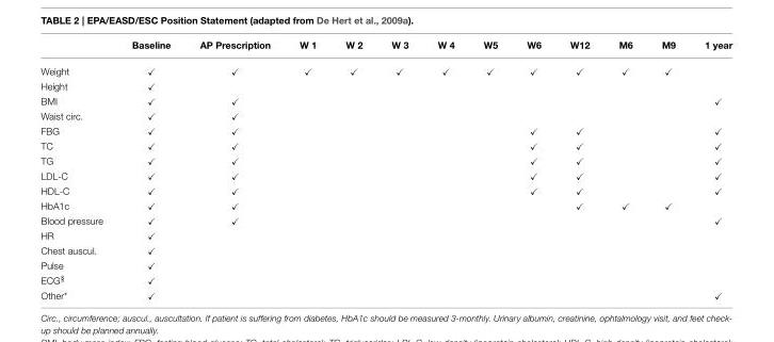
<table><thead><tr><td></td><td>Baseline</td><td>AP Prescription</td><td>W 1</td><td>W 2</td><td>W 3</td><td>W 4</td><td>W5</td><td>W6</td><td>W12</td><td>M6</td><td>M9</td><td>1 year</td></tr></thead><tbody><tr><td>Weight</td><td>✓</td><td>✓</td><td>✓</td><td>✓</td><td>✓</td><td>✓</td><td>✓</td><td>✓</td><td>✓</td><td>✓</td><td>✓</td><td></td></tr><tr><td>Height</td><td>✓</td><td></td><td></td><td></td><td></td><td></td><td></td><td></td><td></td><td></td><td></td><td></td></tr><tr><td>BMI</td><td>✓</td><td>✓</td><td></td><td></td><td></td><td></td><td></td><td></td><td></td><td></td><td></td><td>✓</td></tr><tr><td>Waist circ.</td><td>✓</td><td>✓</td><td></td><td></td><td></td><td></td><td></td><td></td><td></td><td></td><td></td><td></td></tr><tr><td>FBG</td><td>✓</td><td>✓</td><td></td><td></td><td></td><td></td><td></td><td>✓</td><td>✓</td><td></td><td></td><td>✓</td></tr><tr><td>TC</td><td>✓</td><td>✓</td><td></td><td></td><td></td><td></td><td></td><td>✓</td><td>✓</td><td></td><td></td><td>✓</td></tr><tr><td>TG</td><td>✓</td><td>✓</td><td></td><td></td><td></td><td></td><td></td><td>✓</td><td>✓</td><td></td><td></td><td>✓</td></tr><tr><td>LDL-C</td><td>✓</td><td>✓</td><td></td><td></td><td></td><td></td><td></td><td>✓</td><td>✓</td><td></td><td></td><td>✓</td></tr><tr><td>HDL-C</td><td>✓</td><td>✓</td><td></td><td></td><td></td><td></td><td></td><td>✓</td><td>✓</td><td></td><td></td><td>✓</td></tr><tr><td>HbA1c</td><td>✓</td><td>✓</td><td></td><td></td><td></td><td></td><td></td><td></td><td>✓</td><td>✓</td><td>✓</td><td></td></tr><tr><td>Blood pressure</td><td>✓</td><td>✓</td><td></td><td></td><td></td><td></td><td></td><td></td><td></td><td></td><td></td><td>✓</td></tr><tr><td>HR</td><td>✓</td><td></td><td></td><td></td><td></td><td></td><td></td><td></td><td></td><td></td><td></td><td></td></tr><tr><td>Chest auscul.</td><td>✓</td><td></td><td></td><td></td><td></td><td></td><td></td><td></td><td></td><td></td><td></td><td></td></tr><tr><td>Pulse</td><td>✓</td><td></td><td></td><td></td><td></td><td></td><td></td><td></td><td></td><td></td><td></td><td></td></tr><tr><td>ECG<sup>§</sup></td><td>✓</td><td></td><td></td><td></td><td></td><td></td><td></td><td></td><td></td><td></td><td></td><td></td></tr><tr><td>Other*</td><td>✓</td><td></td><td></td><td></td><td></td><td></td><td></td><td></td><td></td><td></td><td></td><td>✓</td></tr></tbody></table>